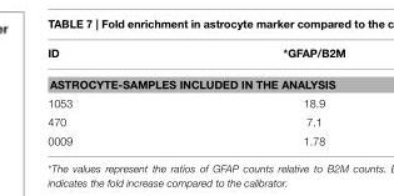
<table><thead><tr><td>ID</td><td>*GFAP/B2M</td></tr></thead><tbody><tr><td colspan="2">ASTROCYTE-SAMPLES INCLUDED IN THE ANALYSIS</td></tr><tr><td>1053</td><td>18.9</td></tr><tr><td>470</td><td>7.1</td></tr><tr><td>0009</td><td>1.78</td></tr></tbody></table>